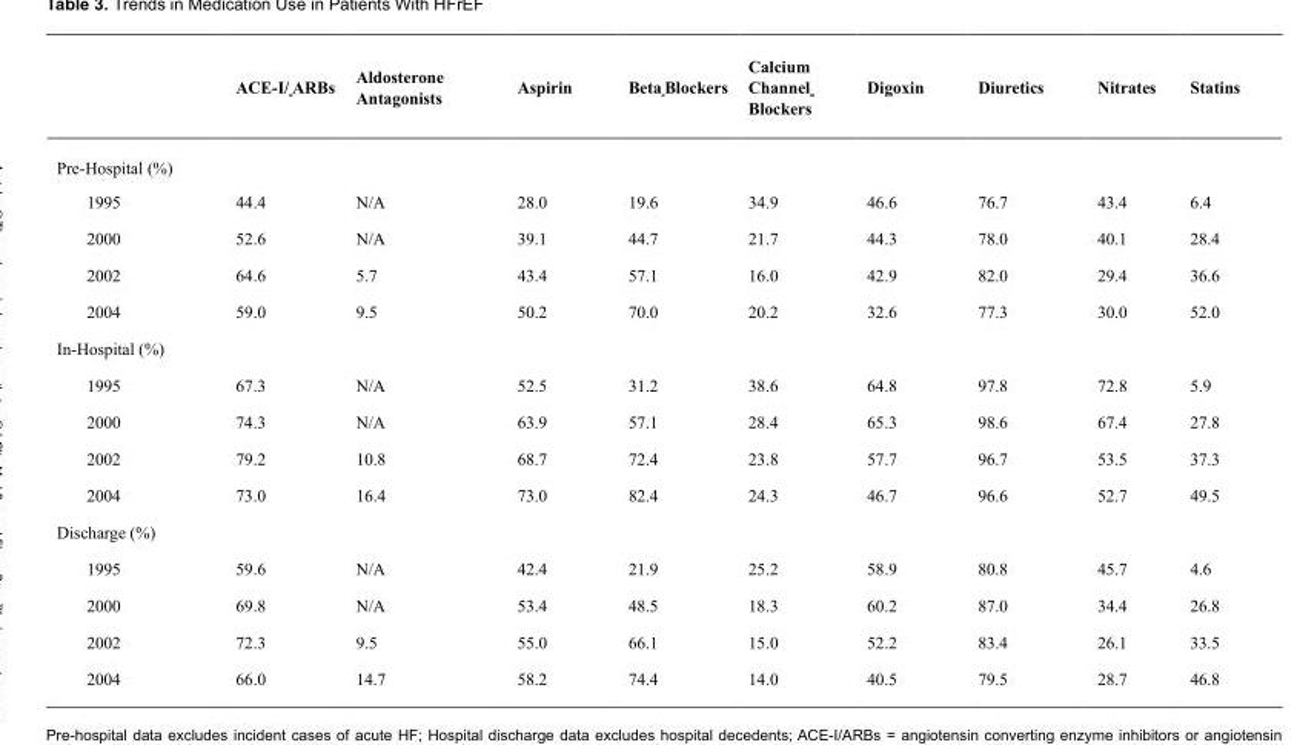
<table><thead><tr><td></td><td>ACE-I/ ARBs</td><td>Aldosterone Antagonists</td><td>Aspirin</td><td>Beta Blockers</td><td>Calcium Channel Blockers</td><td>Digoxin</td><td>Diuretics</td><td>Nitrates</td><td>Statins</td></tr></thead><tbody><tr><td colspan="10">Pre-Hospital (%)</td></tr><tr><td>1995</td><td>44.4</td><td>N/A</td><td>28.0</td><td>19.6</td><td>34.9</td><td>46.6</td><td>76.7</td><td>43.4</td><td>6.4</td></tr><tr><td>2000</td><td>52.6</td><td>N/A</td><td>39.1</td><td>44.7</td><td>21.7</td><td>44.3</td><td>78.0</td><td>40.1</td><td>28.4</td></tr><tr><td>2002</td><td>64.6</td><td>5.7</td><td>43.4</td><td>57.1</td><td>16.0</td><td>42.9</td><td>82.0</td><td>29.4</td><td>36.6</td></tr><tr><td>2004</td><td>59.0</td><td>9.5</td><td>50.2</td><td>70.0</td><td>20.2</td><td>32.6</td><td>77.3</td><td>30.0</td><td>52.0</td></tr><tr><td colspan="10">In-Hospital (%)</td></tr><tr><td>1995</td><td>67.3</td><td>N/A</td><td>52.5</td><td>31.2</td><td>38.6</td><td>64.8</td><td>97.8</td><td>72.8</td><td>5.9</td></tr><tr><td>2000</td><td>74.3</td><td>N/A</td><td>63.9</td><td>57.1</td><td>28.4</td><td>65.3</td><td>98.6</td><td>67.4</td><td>27.8</td></tr><tr><td>2002</td><td>79.2</td><td>10.8</td><td>68.7</td><td>72.4</td><td>23.8</td><td>57.7</td><td>96.7</td><td>53.5</td><td>37.3</td></tr><tr><td>2004</td><td>73.0</td><td>16.4</td><td>73.0</td><td>82.4</td><td>24.3</td><td>46.7</td><td>96.6</td><td>52.7</td><td>49.5</td></tr><tr><td colspan="10">Discharge (%)</td></tr><tr><td>1995</td><td>59.6</td><td>N/A</td><td>42.4</td><td>21.9</td><td>25.2</td><td>58.9</td><td>80.8</td><td>45.7</td><td>4.6</td></tr><tr><td>2000</td><td>69.8</td><td>N/A</td><td>53.4</td><td>48.5</td><td>18.3</td><td>60.2</td><td>87.0</td><td>34.4</td><td>26.8</td></tr><tr><td>2002</td><td>72.3</td><td>9.5</td><td>55.0</td><td>66.1</td><td>15.0</td><td>52.2</td><td>83.4</td><td>26.1</td><td>33.5</td></tr><tr><td>2004</td><td>66.0</td><td>14.7</td><td>58.2</td><td>74.4</td><td>14.0</td><td>40.5</td><td>79.5</td><td>28.7</td><td>46.8</td></tr></tbody></table>